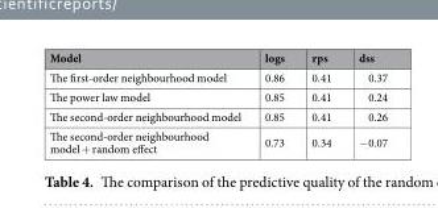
<table><thead><tr><td>Model</td><td>logs</td><td>rps</td><td>dss</td></tr></thead><tbody><tr><td>The first-order neighbourhood model</td><td>0.86</td><td>0.41</td><td>0.37</td></tr><tr><td>The power law model</td><td>0.85</td><td>0.41</td><td>0.24</td></tr><tr><td>The second-order neighbourhood model</td><td>0.85</td><td>0.41</td><td>0.26</td></tr><tr><td>The second-order neighbourhood model + random effect</td><td>0.73</td><td>0.34</td><td>−0.07</td></tr></tbody></table>